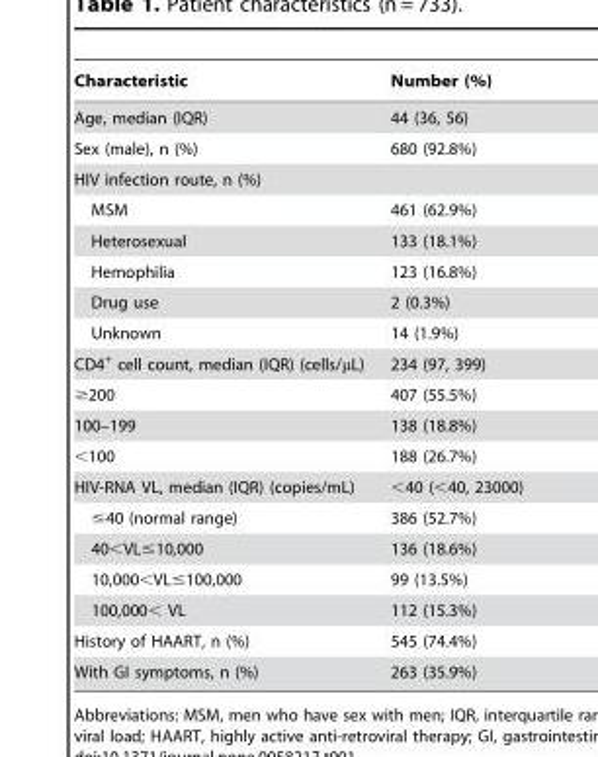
<table><thead><tr><td>Characteristic</td><td>Number (%)</td></tr></thead><tbody><tr><td>Age, median (IQR)</td><td>44 (36, 56)</td></tr><tr><td>Sex (male), n (%)</td><td>680 (92.8%)</td></tr><tr><td colspan="2">HIV infection route, n (%)</td></tr><tr><td>MSM</td><td>461 (62.9%)</td></tr><tr><td>Heterosexual</td><td>133 (18.1%)</td></tr><tr><td>Hemophilia</td><td>123 (16.8%)</td></tr><tr><td>Drug use</td><td>2 (0.3%)</td></tr><tr><td>Unknown</td><td>14 (1.9%)</td></tr><tr><td>CD4<sup>+</sup> cell count, median (IQR) (cells/μL)</td><td>234 (97, 399)</td></tr><tr><td>≥200</td><td>407 (55.5%)</td></tr><tr><td>100–199</td><td>138 (18.8%)</td></tr><tr><td>&lt;100</td><td>188 (26.7%)</td></tr><tr><td>HIV-RNA VL, median (IQR) (copies/mL)</td><td>&lt;40 (&lt;40, 23000)</td></tr><tr><td>≤40 (normal range)</td><td>386 (52.7%)</td></tr><tr><td>40&lt;VL≤10,000</td><td>136 (18.6%)</td></tr><tr><td>10,000&lt;VL≤100,000</td><td>99 (13.5%)</td></tr><tr><td>100,000&lt; VL</td><td>112 (15.3%)</td></tr><tr><td>History of HAART, n (%)</td><td>545 (74.4%)</td></tr><tr><td>With GI symptoms, n (%)</td><td>263 (35.9%)</td></tr></tbody></table>